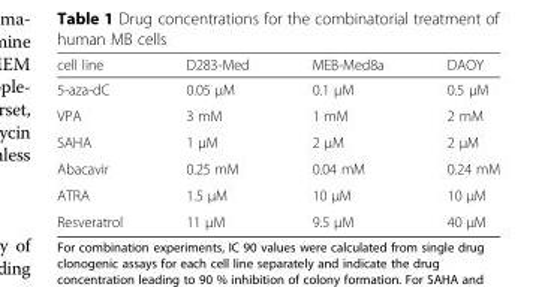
<table><thead><tr><td>cell line</td><td>D283-Med</td><td>MEB-Med8a</td><td>DAOY</td></tr></thead><tbody><tr><td>5-aza-dC</td><td>0.05 μM</td><td>0.1 μM</td><td>0.5 μM</td></tr><tr><td>VPA</td><td>3 mM</td><td>1 mM</td><td>2 mM</td></tr><tr><td>SAHA</td><td>1 μM</td><td>2 μM</td><td>2 μM</td></tr><tr><td>Abacavir</td><td>0.25 mM</td><td>0.04 mM</td><td>0.24 mM</td></tr><tr><td>ATRA</td><td>1.5 μM</td><td>10 μM</td><td>10 μM</td></tr><tr><td>Resveratrol</td><td>11 μM</td><td>9.5 μM</td><td>40 μM</td></tr></tbody></table>